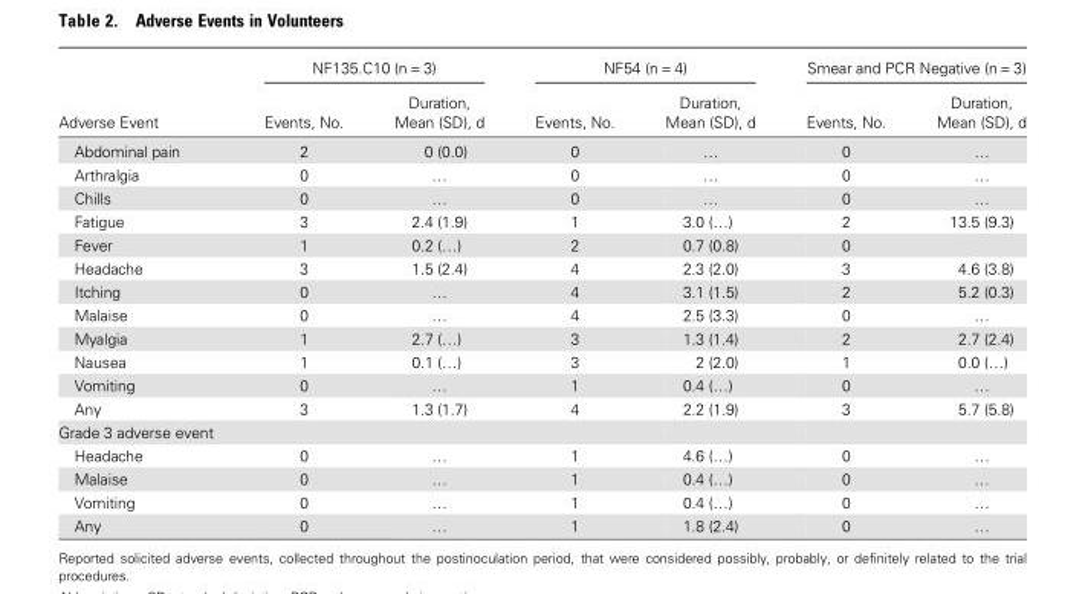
<table><thead><tr><td rowspan="2">Adverse Event</td><td colspan="2">NF135.C10 (n = 3)</td><td colspan="2">NF54 (n = 4)</td><td colspan="2">Smear and PCR Negative (n = 3)</td></tr><tr><td>Events, No.</td><td>Duration, Mean (SD), d</td><td>Events, No.</td><td>Duration, Mean (SD), d</td><td>Events, No.</td><td>Duration, Mean (SD), d</td></tr></thead><tbody><tr><td>Abdominal pain</td><td>2</td><td>0 (0.0)</td><td>0</td><td>…</td><td>0</td><td>…</td></tr><tr><td>Arthralgia</td><td>0</td><td>…</td><td>0</td><td>…</td><td>0</td><td>…</td></tr><tr><td>Chills</td><td>0</td><td>…</td><td>0</td><td>…</td><td>0</td><td>…</td></tr><tr><td>Fatigue</td><td>3</td><td>2.4 (1.9)</td><td>1</td><td>3.0 (…)</td><td>2</td><td>13.5 (9.3)</td></tr><tr><td>Fever</td><td>1</td><td>0.2 (…)</td><td>2</td><td>0.7 (0.8)</td><td>0</td><td></td></tr><tr><td>Headache</td><td>3</td><td>1.5 (2.4)</td><td>4</td><td>2.3 (2.0)</td><td>3</td><td>4.6 (3.8)</td></tr><tr><td>Itching</td><td>0</td><td>…</td><td>4</td><td>3.1 (1.5)</td><td>2</td><td>5.2 (0.3)</td></tr><tr><td>Malaise</td><td>0</td><td>…</td><td>4</td><td>2.5 (3.3)</td><td>0</td><td>…</td></tr><tr><td>Myalgia</td><td>1</td><td>2.7 (…)</td><td>3</td><td>1.3 (1.4)</td><td>2</td><td>2.7 (2.4)</td></tr><tr><td>Nausea</td><td>1</td><td>0.1 (…)</td><td>3</td><td>2 (2.0)</td><td>1</td><td>0.0 (…)</td></tr><tr><td>Vomiting</td><td>0</td><td>…</td><td>1</td><td>0.4 (…)</td><td>0</td><td>…</td></tr><tr><td>Any</td><td>3</td><td>1.3 (1.7)</td><td>4</td><td>2.2 (1.9)</td><td>3</td><td>5.7 (5.8)</td></tr><tr><td colspan="7">Grade 3 adverse event</td></tr><tr><td>Headache</td><td>0</td><td>…</td><td>1</td><td>4.6 (…)</td><td>0</td><td>…</td></tr><tr><td>Malaise</td><td>0</td><td>…</td><td>1</td><td>0.4 (…)</td><td>0</td><td>…</td></tr><tr><td>Vomiting</td><td>0</td><td>…</td><td>1</td><td>0.4 (…)</td><td>0</td><td>…</td></tr><tr><td>Any</td><td>0</td><td>…</td><td>1</td><td>1.8 (2.4)</td><td>0</td><td>…</td></tr></tbody></table>